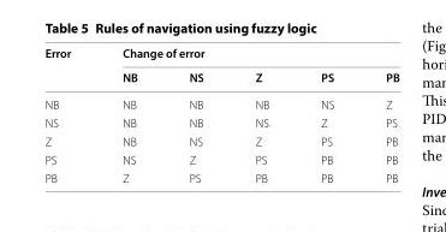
<table><thead><tr><td rowspan="2">Error</td><td colspan="5">Change of error</td></tr><tr><td>NB</td><td>NS</td><td>Z</td><td>PS</td><td>PB</td></tr></thead><tbody><tr><td>NB</td><td>NB</td><td>NB</td><td>NB</td><td>NS</td><td>Z</td></tr><tr><td>NS</td><td>NB</td><td>NB</td><td>NS</td><td>Z</td><td>PS</td></tr><tr><td>Z</td><td>NB</td><td>NS</td><td>Z</td><td>PS</td><td>PB</td></tr><tr><td>PS</td><td>NS</td><td>Z</td><td>PS</td><td>PB</td><td>PB</td></tr><tr><td>PB</td><td>Z</td><td>PS</td><td>PB</td><td>PB</td><td>PB</td></tr></tbody></table>